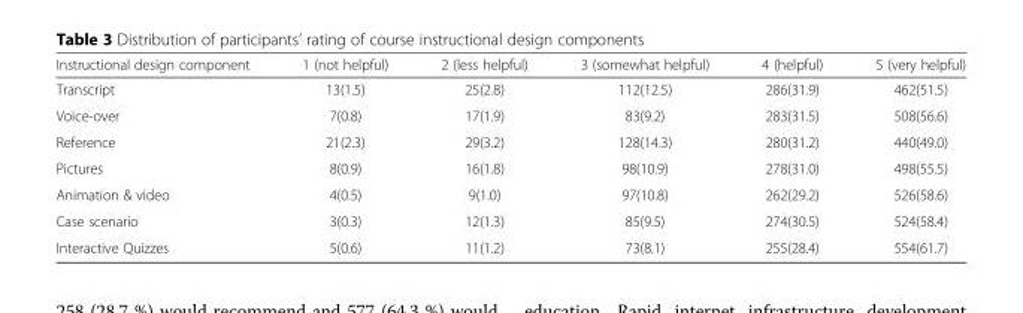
<table><thead><tr><td>Instructional design component</td><td>1 (not helpful)</td><td>2 (less helpful)</td><td>3 (somewhat helpful)</td><td>4 (helpful)</td><td>5 (very helpful)</td></tr></thead><tbody><tr><td>Transcript</td><td>13(1.5)</td><td>25(2.8)</td><td>112(12.5)</td><td>286(31.9)</td><td>462(51.5)</td></tr><tr><td>Voice-over</td><td>7(0.8)</td><td>17(1.9)</td><td>83(9.2)</td><td>283(31.5)</td><td>508(56.6)</td></tr><tr><td>Reference</td><td>21(2.3)</td><td>29(3.2)</td><td>128(14.3)</td><td>280(31.2)</td><td>440(49.0)</td></tr><tr><td>Pictures</td><td>8(0.9)</td><td>16(1.8)</td><td>98(10.9)</td><td>278(31.0)</td><td>498(55.5)</td></tr><tr><td>Animation &amp; video</td><td>4(0.5)</td><td>9(1.0)</td><td>97(10.8)</td><td>262(29.2)</td><td>526(58.6)</td></tr><tr><td>Case scenario</td><td>3(0.3)</td><td>12(1.3)</td><td>85(9.5)</td><td>274(30.5)</td><td>524(58.4)</td></tr><tr><td>Interactive Quizzes</td><td>5(0.6)</td><td>11(1.2)</td><td>73(8.1)</td><td>255(28.4)</td><td>554(61.7)</td></tr></tbody></table>